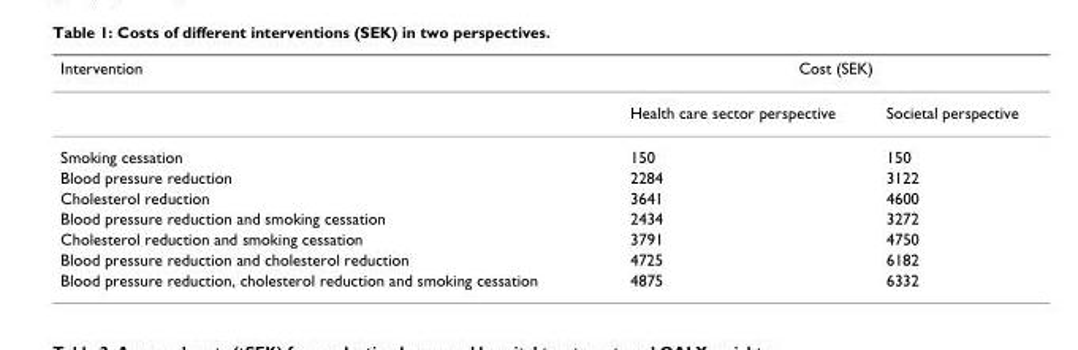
<table><thead><tr><td rowspan="2">Intervention</td><td colspan="2">Cost (SEK)</td></tr><tr><td>Health care sector perspective</td><td>Societal perspective</td></tr></thead><tbody><tr><td>Smoking cessation</td><td>150</td><td>150</td></tr><tr><td>Blood pressure reduction</td><td>2284</td><td>3122</td></tr><tr><td>Cholesterol reduction</td><td>3641</td><td>4600</td></tr><tr><td>Blood pressure reduction and smoking cessation</td><td>2434</td><td>3272</td></tr><tr><td>Cholesterol reduction and smoking cessation</td><td>3791</td><td>4750</td></tr><tr><td>Blood pressure reduction and cholesterol reduction</td><td>4725</td><td>6182</td></tr><tr><td>Blood pressure reduction, cholesterol reduction and smoking cessation</td><td>4875</td><td>6332</td></tr></tbody></table>